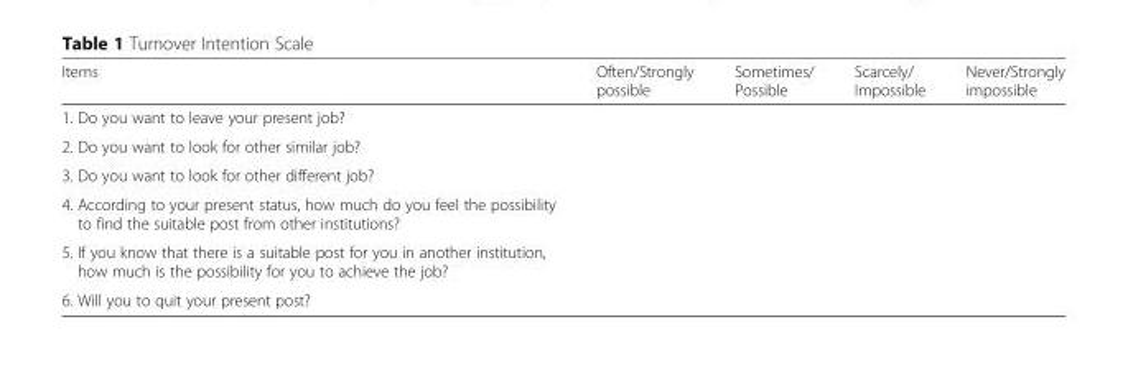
<table><thead><tr><td>Items</td><td>Often/Strongly possible</td><td>Sometimes/ Possible</td><td>Scarcely/ Impossible</td><td>Never/Strongly impossible</td></tr></thead><tbody><tr><td colspan="5">1. Do you want to leave your present job?</td></tr><tr><td colspan="5">2. Do you want to look for other similar job?</td></tr><tr><td colspan="5">3. Do you want to look for other different job?</td></tr><tr><td colspan="5">4. According to your present status, how much do you feel the possibility to find the suitable post from other institutions?</td></tr><tr><td colspan="5">5. If you know that there is a suitable post for you in another institution, how much is the possibility for you to achieve the job?</td></tr><tr><td>6. Will you to quit your present post?</td><td></td><td></td><td></td><td></td></tr></tbody></table>